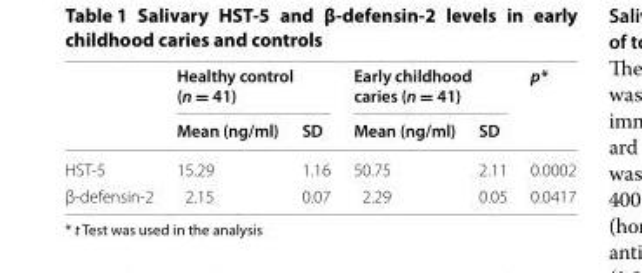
<table><thead><tr><td rowspan="2"></td><td colspan="2">Healthy control (n = 41)</td><td colspan="2">Early childhood caries (n = 41)</td><td rowspan="2">p*</td></tr><tr><td>Mean (ng/ml)</td><td>SD</td><td>Mean (ng/ml)</td><td>SD</td></tr></thead><tbody><tr><td>HST-5</td><td>15.29</td><td>1.16</td><td>50.75</td><td>2.11</td><td>0.0002</td></tr><tr><td>β-defensin-2</td><td>2.15</td><td>0.07</td><td>2.29</td><td>0.05</td><td>0.0417</td></tr></tbody></table>